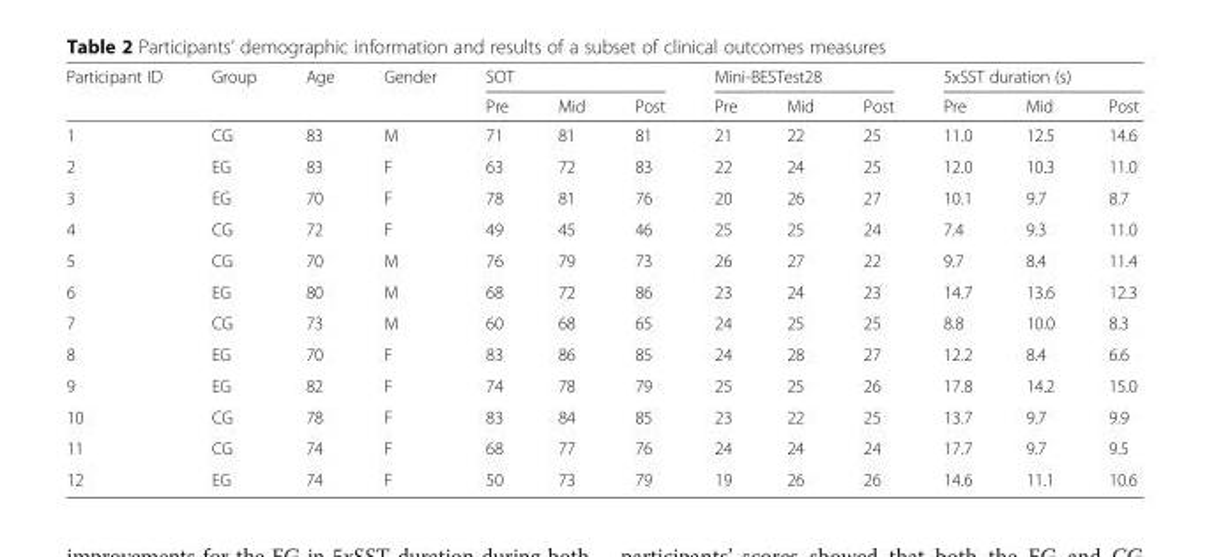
<table><thead><tr><td rowspan="2">Participant ID</td><td rowspan="2">Group</td><td rowspan="2">Age</td><td rowspan="2">Gender</td><td colspan="3">SOT</td><td colspan="3">Mini-BESTest28</td><td colspan="3">5xSST duration (s)</td></tr><tr><td>Pre</td><td>Mid</td><td>Post</td><td>Pre</td><td>Mid</td><td>Post</td><td>Pre</td><td>Mid</td><td>Post</td></tr></thead><tbody><tr><td>1</td><td>CG</td><td>83</td><td>M</td><td>71</td><td>81</td><td>81</td><td>21</td><td>22</td><td>25</td><td>11.0</td><td>12.5</td><td>14.6</td></tr><tr><td>2</td><td>EG</td><td>83</td><td>F</td><td>63</td><td>72</td><td>83</td><td>22</td><td>24</td><td>25</td><td>12.0</td><td>10.3</td><td>11.0</td></tr><tr><td>3</td><td>EG</td><td>70</td><td>F</td><td>78</td><td>81</td><td>76</td><td>20</td><td>26</td><td>27</td><td>10.1</td><td>9.7</td><td>8.7</td></tr><tr><td>4</td><td>CG</td><td>72</td><td>F</td><td>49</td><td>45</td><td>46</td><td>25</td><td>25</td><td>24</td><td>7.4</td><td>9.3</td><td>11.0</td></tr><tr><td>5</td><td>CG</td><td>70</td><td>M</td><td>76</td><td>79</td><td>73</td><td>26</td><td>27</td><td>22</td><td>9.7</td><td>8.4</td><td>11.4</td></tr><tr><td>6</td><td>EG</td><td>80</td><td>M</td><td>68</td><td>72</td><td>86</td><td>23</td><td>24</td><td>23</td><td>14.7</td><td>13.6</td><td>12.3</td></tr><tr><td>7</td><td>CG</td><td>73</td><td>M</td><td>60</td><td>68</td><td>65</td><td>24</td><td>25</td><td>25</td><td>8.8</td><td>10.0</td><td>8.3</td></tr><tr><td>8</td><td>EG</td><td>70</td><td>F</td><td>83</td><td>86</td><td>85</td><td>24</td><td>28</td><td>27</td><td>12.2</td><td>8.4</td><td>6.6</td></tr><tr><td>9</td><td>EG</td><td>82</td><td>F</td><td>74</td><td>78</td><td>79</td><td>25</td><td>25</td><td>26</td><td>17.8</td><td>14.2</td><td>15.0</td></tr><tr><td>10</td><td>CG</td><td>78</td><td>F</td><td>83</td><td>84</td><td>85</td><td>23</td><td>22</td><td>25</td><td>13.7</td><td>9.7</td><td>9.9</td></tr><tr><td>11</td><td>CG</td><td>74</td><td>F</td><td>68</td><td>77</td><td>76</td><td>24</td><td>24</td><td>24</td><td>17.7</td><td>9.7</td><td>9.5</td></tr><tr><td>12</td><td>EG</td><td>74</td><td>F</td><td>50</td><td>73</td><td>79</td><td>19</td><td>26</td><td>26</td><td>14.6</td><td>11.1</td><td>10.6</td></tr></tbody></table>